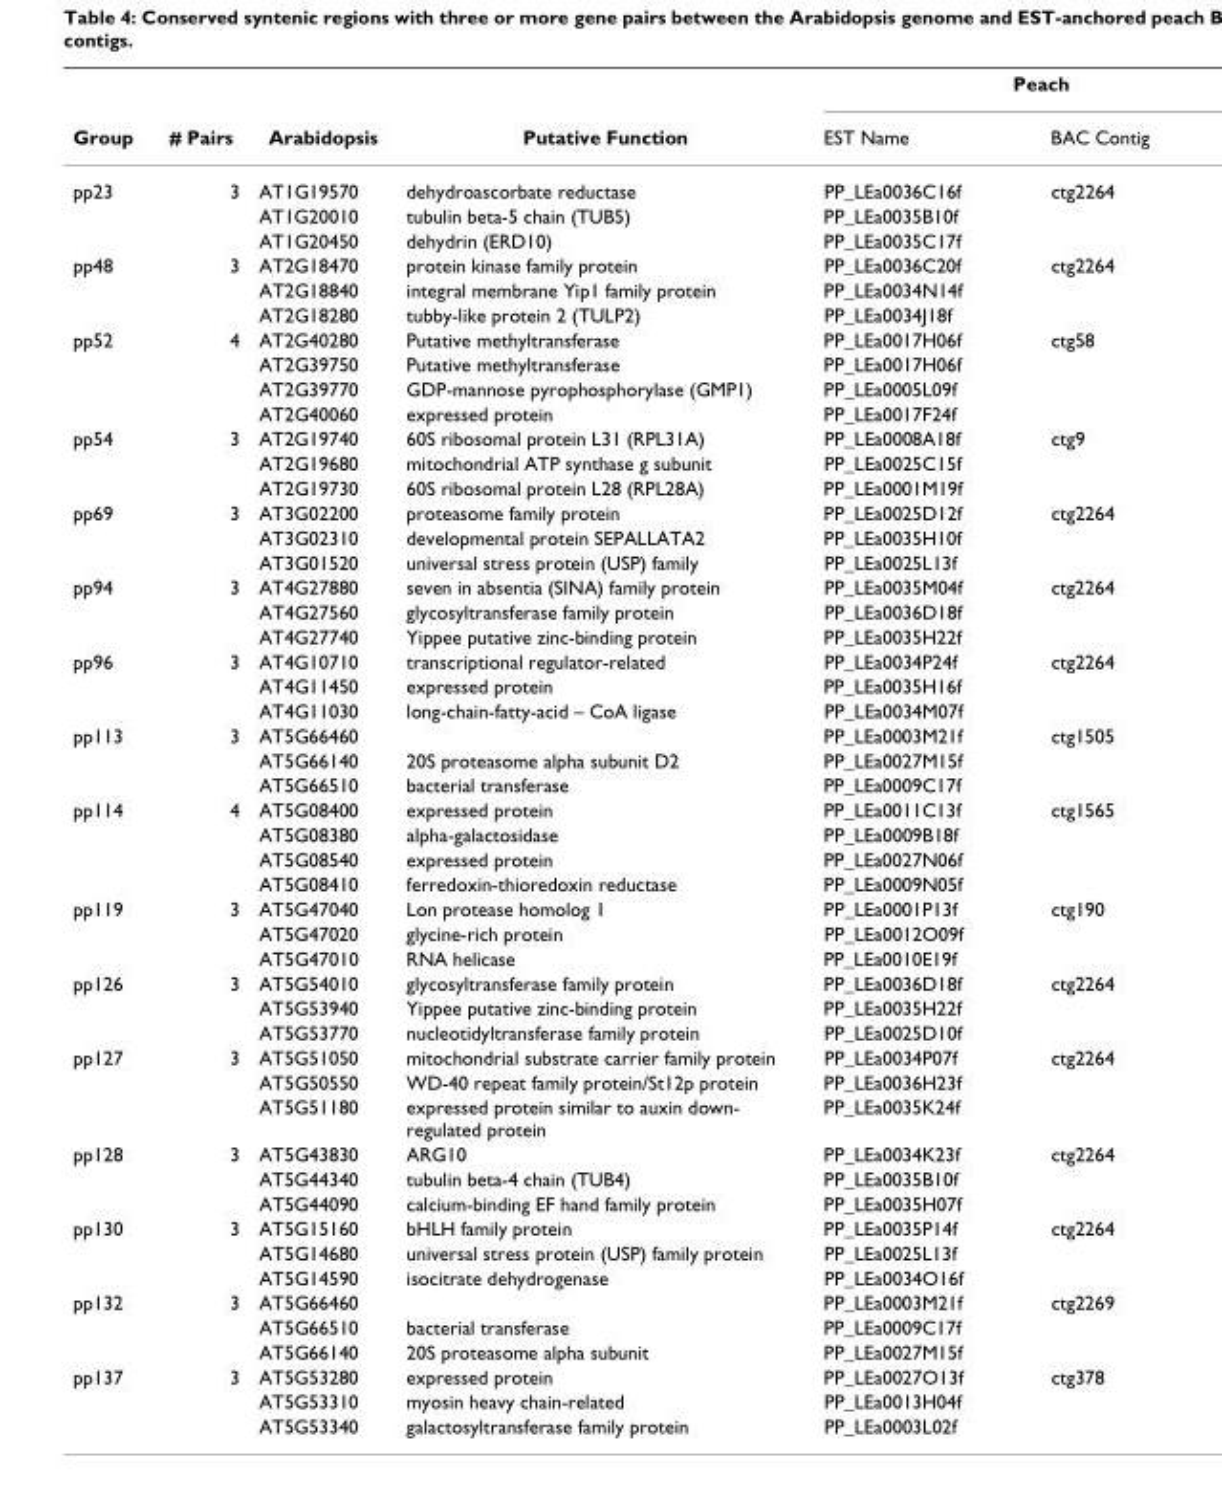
<table><thead><tr><td rowspan="2">Group</td><td rowspan="2"># Pairs</td><td rowspan="2">Arabidopsis</td><td rowspan="2">Putative Function</td><td colspan="2">Peach</td></tr><tr><td>EST Name</td><td>BAC Contig</td></tr></thead><tbody><tr><td rowspan="3">pp23</td><td>3</td><td>AT1G19570</td><td>dehydroascorbate reductase</td><td>PP_LEa0036C16f</td><td>ctg2264</td></tr><tr><td></td><td>AT1G20010</td><td>tubulin beta-5 chain (TUB5)</td><td>PP_LEa0035B10f</td><td></td></tr><tr><td></td><td>AT1G20450</td><td>dehydrin (ERD10)</td><td>PP_LEa0035C17f</td><td></td></tr><tr><td rowspan="3">pp48</td><td>3</td><td>AT2G18470</td><td>protein kinase family protein</td><td>PP_LEa0036C20f</td><td>ctg2264</td></tr><tr><td></td><td>AT2G18840</td><td>integral membrane Yip1 family protein</td><td>PP_LEa0034N14f</td><td></td></tr><tr><td></td><td>AT2G18280</td><td>tubby-like protein 2 (TULP2)</td><td>PP_LEa0034J18f</td><td></td></tr><tr><td rowspan="4">pp52</td><td>4</td><td>AT2G40280</td><td>Putative methyltransferase</td><td>PP_LEa0017H06f</td><td>ctg58</td></tr><tr><td></td><td>AT2G39750</td><td>Putative methyltransferase</td><td>PP_LEa0017H06f</td><td></td></tr><tr><td></td><td>AT2G39770</td><td>GDP-mannose pyrophosphorylase (GMP1)</td><td>PP_LEa0005L09f</td><td></td></tr><tr><td></td><td>AT2G40060</td><td>expressed protein</td><td>PP_LEa0017F24f</td><td></td></tr><tr><td rowspan="3">pp54</td><td>3</td><td>AT2G19740</td><td>60S ribosomal protein L31 (RPL31A)</td><td>PP_LEa0008A18f</td><td>ctg9</td></tr><tr><td></td><td>AT2G19680</td><td>mitochondrial ATP synthase g subunit</td><td>PP_LEa0025C15f</td><td></td></tr><tr><td></td><td>AT2G19730</td><td>60S ribosomal protein L28 (RPL28A)</td><td>PP_LEa0001M19f</td><td></td></tr><tr><td rowspan="3">pp69</td><td>3</td><td>AT3G02200</td><td>proteasome family protein</td><td>PP_LEa0025D12f</td><td>ctg2264</td></tr><tr><td></td><td>AT3G02310</td><td>developmental protein SEPALLATA2</td><td>PP_LEa0035H10f</td><td></td></tr><tr><td></td><td>AT3G01520</td><td>universal stress protein (USP) family</td><td>PP_LEa0025L13f</td><td></td></tr><tr><td rowspan="3">pp94</td><td>3</td><td>AT4G27880</td><td>seven in absentia (SINA) family protein</td><td>PP_LEa0035M04f</td><td>ctg2264</td></tr><tr><td></td><td>AT4G27560</td><td>glycosyltransferase family protein</td><td>PP_LEa0036D18f</td><td></td></tr><tr><td></td><td>AT4G27740</td><td>Yippee putative zinc-binding protein</td><td>PP_LEa0035H22f</td><td></td></tr><tr><td rowspan="3">pp96</td><td>3</td><td>AT4G10710</td><td>transcriptional regulator-related</td><td>PP_LEa0034P24f</td><td>ctg2264</td></tr><tr><td></td><td>AT4G11450</td><td>expressed protein</td><td>PP_LEa0035H16f</td><td></td></tr><tr><td></td><td>AT4G11030</td><td>long-chain-fatty-acid – CoA ligase</td><td>PP_LEa0034M07f</td><td></td></tr><tr><td rowspan="3">pp113</td><td>3</td><td>AT5G66460</td><td></td><td>PP_LEa0003M21f</td><td>ctg1505</td></tr><tr><td></td><td>AT5G66140</td><td>20S proteasome alpha subunit D2</td><td>PP_LEa0027M15f</td><td></td></tr><tr><td></td><td>AT5G66510</td><td>bacterial transferase</td><td>PP_LEa0009C17f</td><td></td></tr><tr><td rowspan="4">pp114</td><td>4</td><td>AT5G08400</td><td>expressed protein</td><td>PP_LEa0011C13f</td><td>ctg1565</td></tr><tr><td></td><td>AT5G08380</td><td>alpha-galactosidase</td><td>PP_LEa0009B18f</td><td></td></tr><tr><td></td><td>AT5G08540</td><td>expressed protein</td><td>PP_LEa0027N06f</td><td></td></tr><tr><td></td><td>AT5G08410</td><td>ferredoxin-thioredoxin reductase</td><td>PP_LEa0009N05f</td><td></td></tr><tr><td rowspan="3">pp119</td><td>3</td><td>AT5G47040</td><td>Lon protease homolog 1</td><td>PP_LEa0001P13f</td><td>ctg190</td></tr><tr><td></td><td>AT5G47020</td><td>glycine-rich protein</td><td>PP_LEa0012O09f</td><td></td></tr><tr><td></td><td>AT5G47010</td><td>RNA helicase</td><td>PP_LEa0010E19f</td><td></td></tr><tr><td rowspan="3">pp126</td><td>3</td><td>AT5G54010</td><td>glycosyltransferase family protein</td><td>PP_LEa0036D18f</td><td>ctg2264</td></tr><tr><td></td><td>AT5G53940</td><td>Yippee putative zinc-binding protein</td><td>PP_LEa0035H22f</td><td></td></tr><tr><td></td><td>AT5G53770</td><td>nucleotidyltransferase family protein</td><td>PP_LEa0025D10f</td><td></td></tr><tr><td rowspan="3">pp127</td><td>3</td><td>AT5G51050</td><td>mitochondrial substrate carrier family protein</td><td>PP_LEa0034P07f</td><td>ctg2264</td></tr><tr><td></td><td>AT5G50550</td><td>WD-40 repeat family protein/St12p protein</td><td>PP_LEa0036H23f</td><td></td></tr><tr><td></td><td>AT5G51180</td><td>expressed protein similar to auxin down- regulated protein</td><td>PP_LEa0035K24f</td><td></td></tr><tr><td rowspan="3">pp128</td><td>3</td><td>AT5G43830</td><td>ARG10</td><td>PP_LEa0034K23f</td><td>ctg2264</td></tr><tr><td></td><td>AT5G44340</td><td>tubulin beta-4 chain (TUB4)</td><td>PP_LEa0035B10f</td><td></td></tr><tr><td></td><td>AT5G44090</td><td>calcium-binding EF hand family protein</td><td>PP_LEa0035H07f</td><td></td></tr><tr><td rowspan="3">pp130</td><td>3</td><td>AT5G15160</td><td>bHLH family protein</td><td>PP_LEa0035P14f</td><td>ctg2264</td></tr><tr><td></td><td>AT5G14680</td><td>universal stress protein (USP) family protein</td><td>PP_LEa0025L13f</td><td></td></tr><tr><td></td><td>AT5G14590</td><td>isocitrate dehydrogenase</td><td>PP_LEa0034O16f</td><td></td></tr><tr><td rowspan="3">pp132</td><td>3</td><td>AT5G66460</td><td></td><td>PP_LEa0003M21f</td><td>ctg2269</td></tr><tr><td></td><td>AT5G66510</td><td>bacterial transferase</td><td>PP_LEa0009C17f</td><td></td></tr><tr><td></td><td>AT5G66140</td><td>20S proteasome alpha subunit</td><td>PP_LEa0027M15f</td><td></td></tr><tr><td rowspan="3">pp137</td><td>3</td><td>AT5G53280</td><td>expressed protein</td><td>PP_LEa0027O13f</td><td>ctg378</td></tr><tr><td></td><td>AT5G53310</td><td>myosin heavy chain-related</td><td>PP_LEa0013H04f</td><td></td></tr><tr><td></td><td>AT5G53340</td><td>galactosyltransferase family protein</td><td>PP_LEa0003L02f</td><td></td></tr></tbody></table>